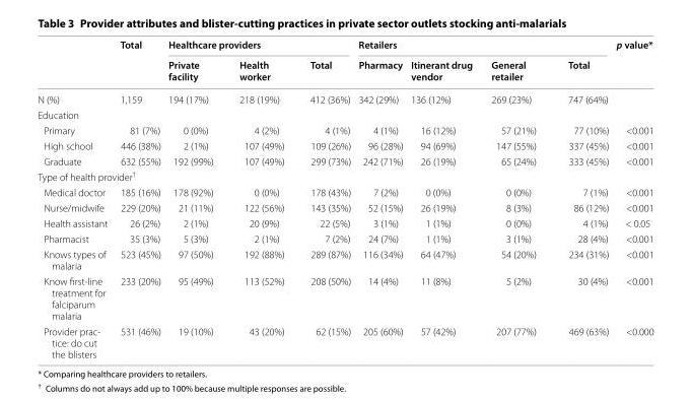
<table><thead><tr><td rowspan="2"></td><td rowspan="2">Total</td><td colspan="3">Healthcare providers</td><td colspan="4">Retailers</td><td rowspan="2">p value*</td></tr><tr><td>Private facility</td><td>Health worker</td><td>Total</td><td>Pharmacy</td><td>Itinerant drug vendor</td><td>General retailer</td><td>Total</td></tr></thead><tbody><tr><td>N (%)</td><td>1,159</td><td>194 (17%)</td><td>218 (19%)</td><td>412 (36%)</td><td>342 (29%)</td><td>136 (12%)</td><td>269 (23%)</td><td>747 (64%)</td><td></td></tr><tr><td colspan="10">Education</td></tr><tr><td>Primary</td><td>81 (7%)</td><td>0 (0%)</td><td>4 (2%)</td><td>4 (1%)</td><td>4 (1%)</td><td>16 (12%)</td><td>57 (21%)</td><td>77 (10%)</td><td>&lt;0.001</td></tr><tr><td>High school</td><td>446 (38%)</td><td>2 (1%)</td><td>107 (49%)</td><td>109 (26%)</td><td>96 (28%)</td><td>94 (69%)</td><td>147 (55%)</td><td>337 (45%)</td><td>&lt;0.001</td></tr><tr><td>Graduate</td><td>632 (55%)</td><td>192 (99%)</td><td>107 (49%)</td><td>299 (73%)</td><td>242 (71%)</td><td>26 (19%)</td><td>65 (24%)</td><td>333 (45%)</td><td>&lt;0.001</td></tr><tr><td colspan="10">Type of health provider<sup>†</sup></td></tr><tr><td>Medical doctor</td><td>185 (16%)</td><td>178 (92%)</td><td>0 (0%)</td><td>178 (43%)</td><td>7 (2%)</td><td>0 (0%)</td><td>0 (0%)</td><td>7 (1%)</td><td>&lt;0.001</td></tr><tr><td>Nurse/midwife</td><td>229 (20%)</td><td>21 (11%)</td><td>122 (56%)</td><td>143 (35%)</td><td>52 (15%)</td><td>26 (19%)</td><td>8 (3%)</td><td>86 (12%)</td><td>&lt;0.001</td></tr><tr><td>Health assistant</td><td>26 (2%)</td><td>2 (1%)</td><td>20 (9%)</td><td>22 (5%)</td><td>3 (1%)</td><td>1 (1%)</td><td>0 (0%)</td><td>4 (1%)</td><td>&lt; 0.05</td></tr><tr><td>Pharmacist</td><td>35 (3%)</td><td>5 (3%)</td><td>2 (1%)</td><td>7 (2%)</td><td>24 (7%)</td><td>1 (1%)</td><td>3 (1%)</td><td>28 (4%)</td><td>&lt;0.001</td></tr><tr><td>Knows types of malaria</td><td>523 (45%)</td><td>97 (50%)</td><td>192 (88%)</td><td>289 (87%)</td><td>116 (34%)</td><td>64 (47%)</td><td>54 (20%)</td><td>234 (31%)</td><td>&lt;0.001</td></tr><tr><td>Know first-line treatment for falciparum malaria</td><td>233 (20%)</td><td>95 (49%)</td><td>113 (52%)</td><td>208 (50%)</td><td>14 (4%)</td><td>11 (8%)</td><td>5 (2%)</td><td>30 (4%)</td><td>&lt;0.001</td></tr><tr><td>Provider prac- tice: do cut the blisters</td><td>531 (46%)</td><td>19 (10%)</td><td>43 (20%)</td><td>62 (15%)</td><td>205 (60%)</td><td>57 (42%)</td><td>207 (77%)</td><td>469 (63%)</td><td>&lt;0.000</td></tr></tbody></table>